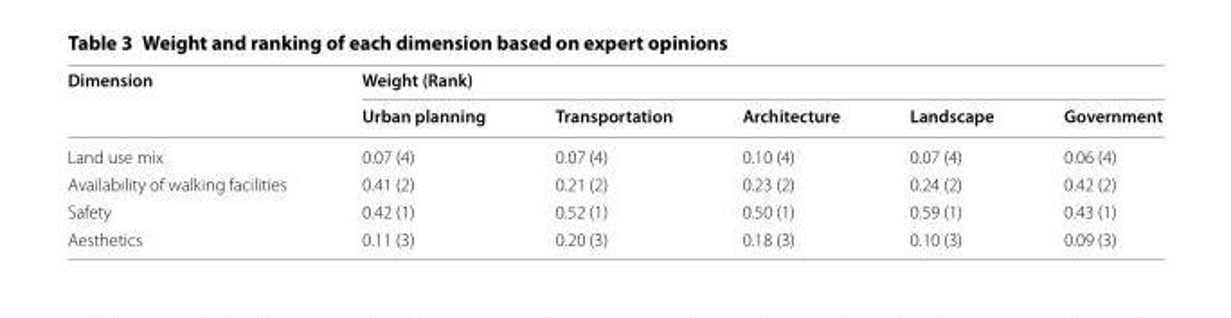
<table><thead><tr><td rowspan="2">Dimension</td><td colspan="5">Weight (Rank)</td></tr><tr><td>Urban planning</td><td>Transportation</td><td>Architecture</td><td>Landscape</td><td>Government</td></tr></thead><tbody><tr><td>Land use mix</td><td>0.07 (4)</td><td>0.07 (4)</td><td>0.10 (4)</td><td>0.07 (4)</td><td>0.06 (4)</td></tr><tr><td>Availability of walking facilities</td><td>0.41 (2)</td><td>0.21 (2)</td><td>0.23 (2)</td><td>0.24 (2)</td><td>0.42 (2)</td></tr><tr><td>Safety</td><td>0.42 (1)</td><td>0.52 (1)</td><td>0.50 (1)</td><td>0.59 (1)</td><td>0.43 (1)</td></tr><tr><td>Aesthetics</td><td>0.11 (3)</td><td>0.20 (3)</td><td>0.18 (3)</td><td>0.10 (3)</td><td>0.09 (3)</td></tr></tbody></table>